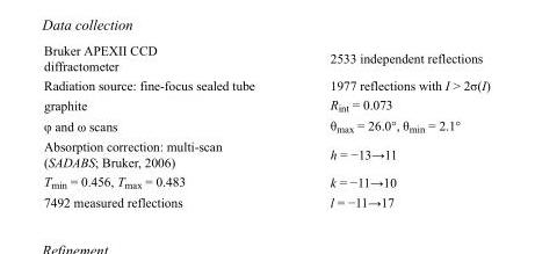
<table><tbody><tr><td>Bruker APEXII CCD diffractometer</td><td>2533 independent reflections</td></tr><tr><td>Radiation source: fine-focus sealed tube</td><td>1977 reflections with I &gt; 2σ(I)</td></tr><tr><td>graphite</td><td>R<sub>int</sub> = 0.073</td></tr><tr><td>φ and ω scans</td><td>θ<sub>max</sub> = 26.0°, θ<sub>min</sub> = 2.1°</td></tr><tr><td>Absorption correction: multi-scan (SADABS; Bruker, 2006)</td><td>h = −13→11</td></tr><tr><td>T<sub>min</sub> = 0.456, T<sub>max</sub> = 0.483</td><td>k = −11→10</td></tr><tr><td>7492 measured reflections</td><td>l = −11→17</td></tr></tbody></table>